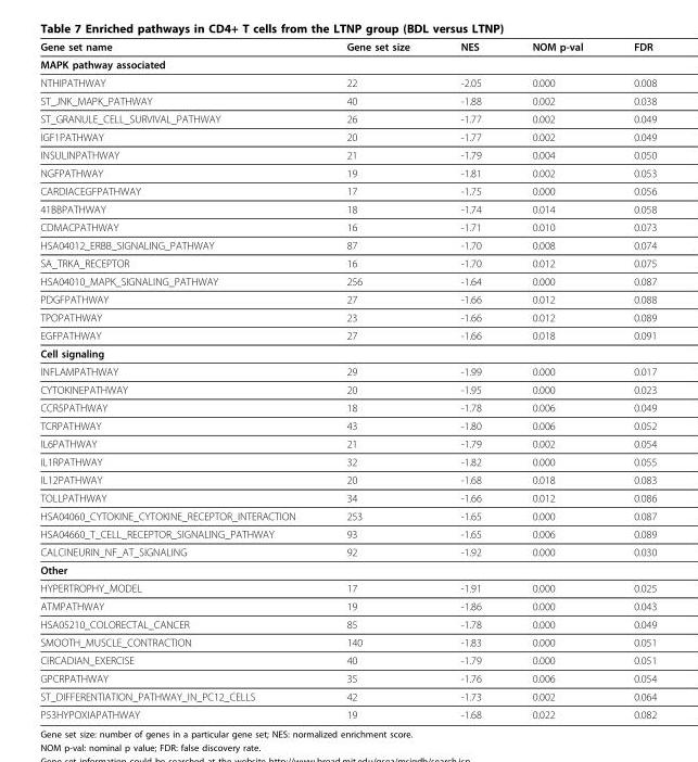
<table><thead><tr><td>Gene set name</td><td>Gene set size</td><td>NES</td><td>NOM p-val</td><td>FDR</td></tr></thead><tbody><tr><td colspan="5">MAPK pathway associated</td></tr><tr><td>NTHIPATHWAY</td><td>22</td><td>-2.05</td><td>0.000</td><td>0.008</td></tr><tr><td>ST_JNK_MAPK_PATHWAY</td><td>40</td><td>-1.88</td><td>0.002</td><td>0.038</td></tr><tr><td>ST_GRANULE_CELL_SURVIVAL_PATHWAY</td><td>26</td><td>-1.77</td><td>0.002</td><td>0.049</td></tr><tr><td>IGF1PATHWAY</td><td>20</td><td>-1.77</td><td>0.002</td><td>0.049</td></tr><tr><td>INSULINPATHWAY</td><td>21</td><td>-1.79</td><td>0.004</td><td>0.050</td></tr><tr><td>NGFPATHWAY</td><td>19</td><td>-1.81</td><td>0.002</td><td>0.053</td></tr><tr><td>CARDIACEGFPATHWAY</td><td>17</td><td>-1.75</td><td>0.000</td><td>0.056</td></tr><tr><td>41BBPATHWAY</td><td>18</td><td>-1.74</td><td>0.014</td><td>0.058</td></tr><tr><td>CDMACPATHWAY</td><td>16</td><td>-1.71</td><td>0.010</td><td>0.073</td></tr><tr><td>HSA04012_ERBB_SIGNALING_PATHWAY</td><td>87</td><td>-1.70</td><td>0.008</td><td>0.074</td></tr><tr><td>SA_TRKA_RECEPTOR</td><td>16</td><td>-1.70</td><td>0.012</td><td>0.075</td></tr><tr><td>HSA04010_MAPK_SIGNALING_PATHWAY</td><td>256</td><td>-1.64</td><td>0.000</td><td>0.087</td></tr><tr><td>PDGFPATHWAY</td><td>27</td><td>-1.66</td><td>0.012</td><td>0.088</td></tr><tr><td>TPOPATHWAY</td><td>23</td><td>-1.66</td><td>0.012</td><td>0.089</td></tr><tr><td>EGFPATHWAY</td><td>27</td><td>-1.66</td><td>0.018</td><td>0.091</td></tr><tr><td colspan="5">Cell signaling</td></tr><tr><td>INFLAMPATHWAY</td><td>29</td><td>-1.99</td><td>0.000</td><td>0.017</td></tr><tr><td>CYTOKINEPATHWAY</td><td>20</td><td>-1.95</td><td>0.000</td><td>0.023</td></tr><tr><td>CCR5PATHWAY</td><td>18</td><td>-1.78</td><td>0.006</td><td>0.049</td></tr><tr><td>TCRPATHWAY</td><td>43</td><td>-1.80</td><td>0.006</td><td>0.052</td></tr><tr><td>IL6PATHWAY</td><td>21</td><td>-1.79</td><td>0.002</td><td>0.054</td></tr><tr><td>IL1RPATHWAY</td><td>32</td><td>-1.82</td><td>0.000</td><td>0.055</td></tr><tr><td>IL12PATHWAY</td><td>20</td><td>-1.68</td><td>0.018</td><td>0.083</td></tr><tr><td>TOLLPATHWAY</td><td>34</td><td>-1.66</td><td>0.012</td><td>0.086</td></tr><tr><td>HSA04060_CYTOKINE_CYTOKINE_RECEPTOR_INTERACTION</td><td>253</td><td>-1.65</td><td>0.000</td><td>0.087</td></tr><tr><td>HSA04660_T_CELL_RECEPTOR_SIGNALING_PATHWAY</td><td>93</td><td>-1.65</td><td>0.006</td><td>0.089</td></tr><tr><td>CALCINEURIN_NF_AT_SIGNALING</td><td>92</td><td>-1.92</td><td>0.000</td><td>0.030</td></tr><tr><td colspan="5">Other</td></tr><tr><td>HYPERTROPHY_MODEL</td><td>17</td><td>-1.91</td><td>0.000</td><td>0.025</td></tr><tr><td>ATMPATHWAY</td><td>19</td><td>-1.86</td><td>0.000</td><td>0.043</td></tr><tr><td>HSA05210_COLORECTAL_CANCER</td><td>85</td><td>-1.78</td><td>0.000</td><td>0.049</td></tr><tr><td>SMOOTH_MUSCLE_CONTRACTION</td><td>140</td><td>-1.83</td><td>0.000</td><td>0.051</td></tr><tr><td>CIRCADIAN_EXERCISE</td><td>40</td><td>-1.79</td><td>0.000</td><td>0.051</td></tr><tr><td>GPCRPATHWAY</td><td>35</td><td>-1.76</td><td>0.006</td><td>0.054</td></tr><tr><td>ST_DIFFERENTIATION_PATHWAY_IN_PC12_CELLS</td><td>42</td><td>-1.73</td><td>0.002</td><td>0.064</td></tr><tr><td>P53HYPOXIAPATHWAY</td><td>19</td><td>-1.68</td><td>0.022</td><td>0.082</td></tr></tbody></table>